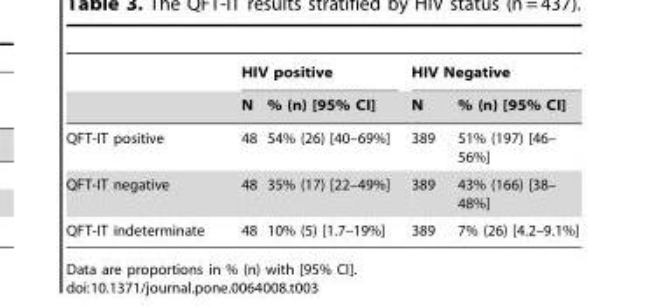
<table><thead><tr><td rowspan="2"></td><td colspan="2">HIV positive</td><td colspan="2">HIV Negative</td></tr><tr><td>N</td><td>% (n) [95% CI]</td><td>N</td><td>% (n) [95% CI]</td></tr></thead><tbody><tr><td>QFT-IT positive</td><td>48</td><td>54% (26) [40–69%]</td><td>389</td><td>51% (197) [46– 56%]</td></tr><tr><td>QFT-IT negative</td><td>48</td><td>35% (17) [22–49%]</td><td>389</td><td>43% (166) [38– 48%]</td></tr><tr><td>QFT-IT indeterminate</td><td>48</td><td>10% (5) [1.7–19%]</td><td>389</td><td>7% (26) [4.2–9.1%]</td></tr></tbody></table>